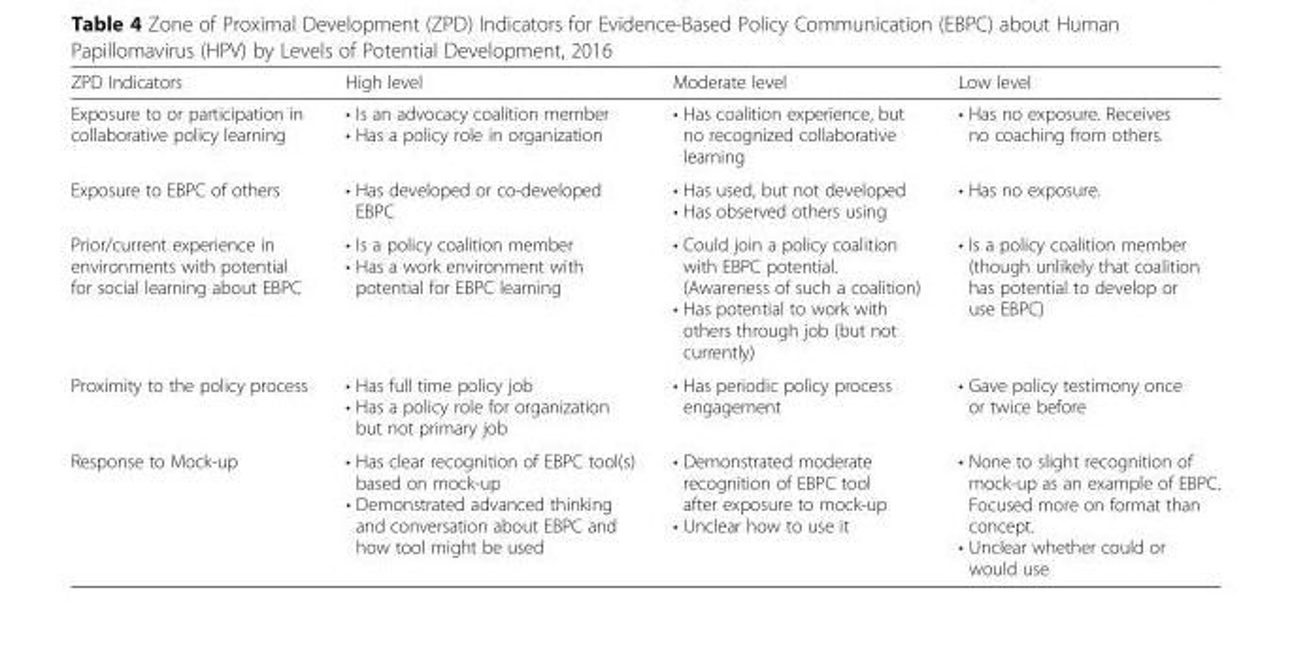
<table><thead><tr><td>ZPD Indicators</td><td>High level</td><td>Moderate level</td><td>Low level</td></tr></thead><tbody><tr><td>Exposure to or participation in collaborative policy learning</td><td>• Is an advocacy coalition member • Has a policy role in organization</td><td>• Has coalition experience, but no recognized collaborative learning</td><td>• Has no exposure. Receives no coaching from others.</td></tr><tr><td>Exposure to EBPC of others</td><td>• Has developed or co-developed EBPC</td><td>• Has used, but not developed • Has observed others using</td><td>• Has no exposure.</td></tr><tr><td>Prior/current experience in environments with potential for social learning about EBPC</td><td>• Is a policy coalition member • Has a work environment with potential for EBPC learning</td><td>• Could join a policy coalition with EBPC potential. (Awareness of such a coalition) • Has potential to work with others through job (but not currently)</td><td>• Is a policy coalition member (though unlikely that coalition has potential to develop or use EBPC)</td></tr><tr><td>Proximity to the policy process</td><td>• Has full time policy job • Has a policy role for organization but not primary job</td><td>• Has periodic policy process engagement</td><td>• Gave policy testimony once or twice before</td></tr><tr><td>Response to Mock-up</td><td>• Has clear recognition of EBPC tool(s) based on mock-up • Demonstrated advanced thinking and conversation about EBPC and how tool might be used</td><td>• Demonstrated moderate recognition of EBPC tool after exposure to mock-up • Unclear how to use it</td><td>• None to slight recognition of mock-up as an example of EBPC. Focused more on format than concept. • Unclear whether could or would use</td></tr></tbody></table>